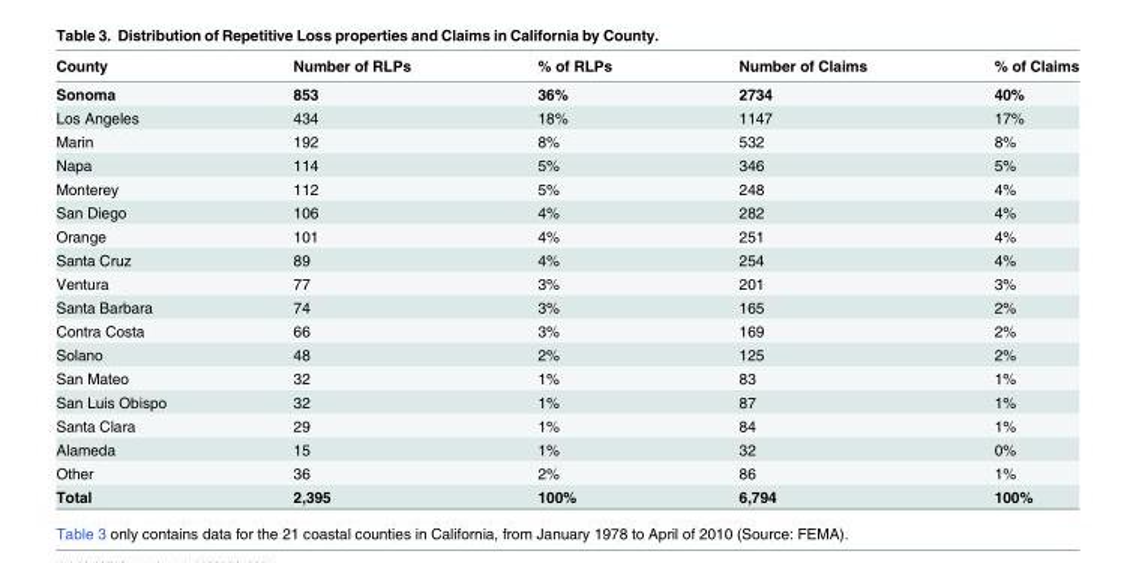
<table><thead><tr><td>County</td><td>Number of RLPs</td><td>% of RLPs</td><td>Number of Claims</td><td>% of Claims</td></tr></thead><tbody><tr><td>Sonoma</td><td>853</td><td>36%</td><td>2734</td><td>40%</td></tr><tr><td>Los Angeles</td><td>434</td><td>18%</td><td>1147</td><td>17%</td></tr><tr><td>Marin</td><td>192</td><td>8%</td><td>532</td><td>8%</td></tr><tr><td>Napa</td><td>114</td><td>5%</td><td>346</td><td>5%</td></tr><tr><td>Monterey</td><td>112</td><td>5%</td><td>248</td><td>4%</td></tr><tr><td>San Diego</td><td>106</td><td>4%</td><td>282</td><td>4%</td></tr><tr><td>Orange</td><td>101</td><td>4%</td><td>251</td><td>4%</td></tr><tr><td>Santa Cruz</td><td>89</td><td>4%</td><td>254</td><td>4%</td></tr><tr><td>Ventura</td><td>77</td><td>3%</td><td>201</td><td>3%</td></tr><tr><td>Santa Barbara</td><td>74</td><td>3%</td><td>165</td><td>2%</td></tr><tr><td>Contra Costa</td><td>66</td><td>3%</td><td>169</td><td>2%</td></tr><tr><td>Solano</td><td>48</td><td>2%</td><td>125</td><td>2%</td></tr><tr><td>San Mateo</td><td>32</td><td>1%</td><td>83</td><td>1%</td></tr><tr><td>San Luis Obispo</td><td>32</td><td>1%</td><td>87</td><td>1%</td></tr><tr><td>Santa Clara</td><td>29</td><td>1%</td><td>84</td><td>1%</td></tr><tr><td>Alameda</td><td>15</td><td>1%</td><td>32</td><td>0%</td></tr><tr><td>Other</td><td>36</td><td>2%</td><td>86</td><td>1%</td></tr><tr><td>Total</td><td>2,395</td><td>100%</td><td>6,794</td><td>100%</td></tr></tbody></table>